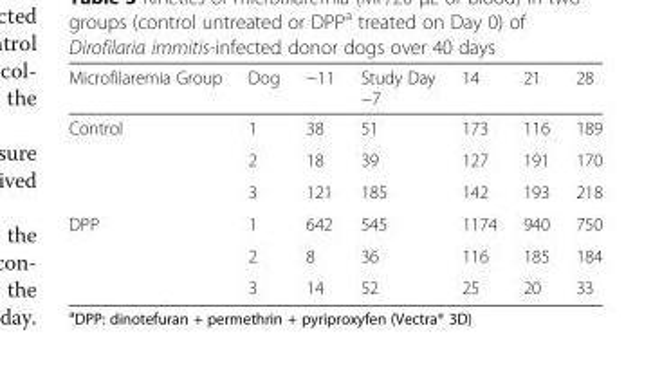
<table><thead><tr><td>Microfilaremia Group</td><td>Dog</td><td>−11</td><td>Study Day −7</td><td>14</td><td>21</td><td>28</td></tr></thead><tbody><tr><td rowspan="3">Control</td><td>1</td><td>38</td><td>51</td><td>173</td><td>116</td><td>189</td></tr><tr><td>2</td><td>18</td><td>39</td><td>127</td><td>191</td><td>170</td></tr><tr><td>3</td><td>121</td><td>185</td><td>142</td><td>193</td><td>218</td></tr><tr><td rowspan="3">DPP</td><td>1</td><td>642</td><td>545</td><td>1174</td><td>940</td><td>750</td></tr><tr><td>2</td><td>8</td><td>36</td><td>116</td><td>185</td><td>184</td></tr><tr><td>3</td><td>14</td><td>52</td><td>25</td><td>20</td><td>33</td></tr></tbody></table>